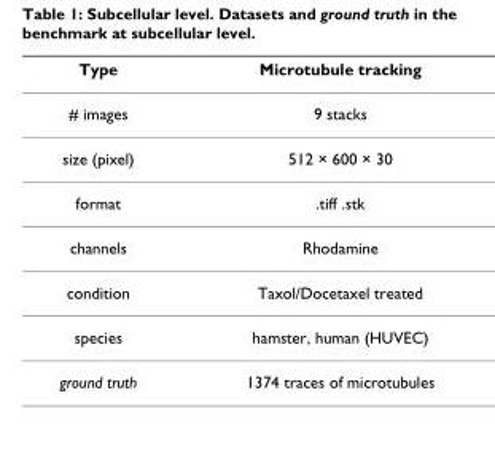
<table><thead><tr><td>Type</td><td>Microtubule tracking</td></tr></thead><tbody><tr><td># images</td><td>9 stacks</td></tr><tr><td>size (pixel)</td><td>512 × 600 × 30</td></tr><tr><td>format</td><td>.tiff .stk</td></tr><tr><td>channels</td><td>Rhodamine</td></tr><tr><td>condition</td><td>Taxol/Docetaxel treated</td></tr><tr><td>species</td><td>hamster, human (HUVEC)</td></tr><tr><td>ground truth</td><td>1374 traces of microtubules</td></tr></tbody></table>